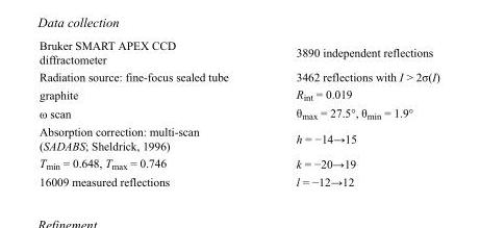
<table><tbody><tr><td>Bruker SMART APEX CCD diffractometer</td><td>3890 independent reflections</td></tr><tr><td>Radiation source: fine-focus sealed tube</td><td>3462 reflections with I &gt; 2σ(I)</td></tr><tr><td>graphite</td><td>R<sub>int</sub> = 0.019</td></tr><tr><td>ω scan</td><td>θ<sub>max</sub> = 27.5°, θ<sub>min</sub> = 1.9°</td></tr><tr><td>Absorption correction: multi-scan (SADABS; Sheldrick, 1996)</td><td>h = −14→15</td></tr><tr><td>T<sub>min</sub> = 0.648, T<sub>max</sub> = 0.746</td><td>k = −20→19</td></tr><tr><td>16009 measured reflections</td><td>l = −12→12</td></tr></tbody></table>